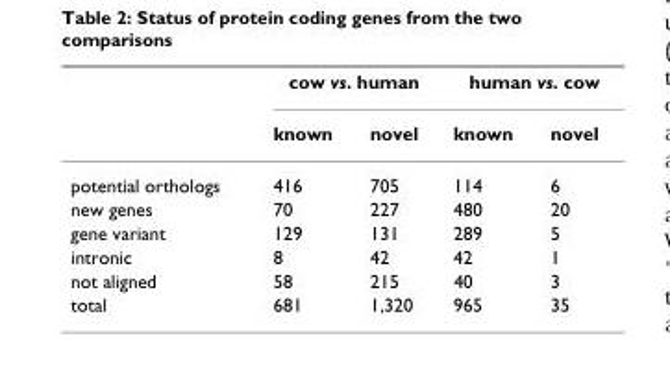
<table><thead><tr><td rowspan="2"></td><td colspan="2">cow vs. human</td><td colspan="2">human vs. cow</td></tr><tr><td>known</td><td>novel</td><td>known</td><td>novel</td></tr></thead><tbody><tr><td>potential orthologs</td><td>416</td><td>705</td><td>114</td><td>6</td></tr><tr><td>new genes</td><td>70</td><td>227</td><td>480</td><td>20</td></tr><tr><td>gene variant</td><td>129</td><td>131</td><td>289</td><td>5</td></tr><tr><td>intronic</td><td>8</td><td>42</td><td>42</td><td>1</td></tr><tr><td>not aligned</td><td>58</td><td>215</td><td>40</td><td>3</td></tr><tr><td>total</td><td>681</td><td>1,320</td><td>965</td><td>35</td></tr></tbody></table>